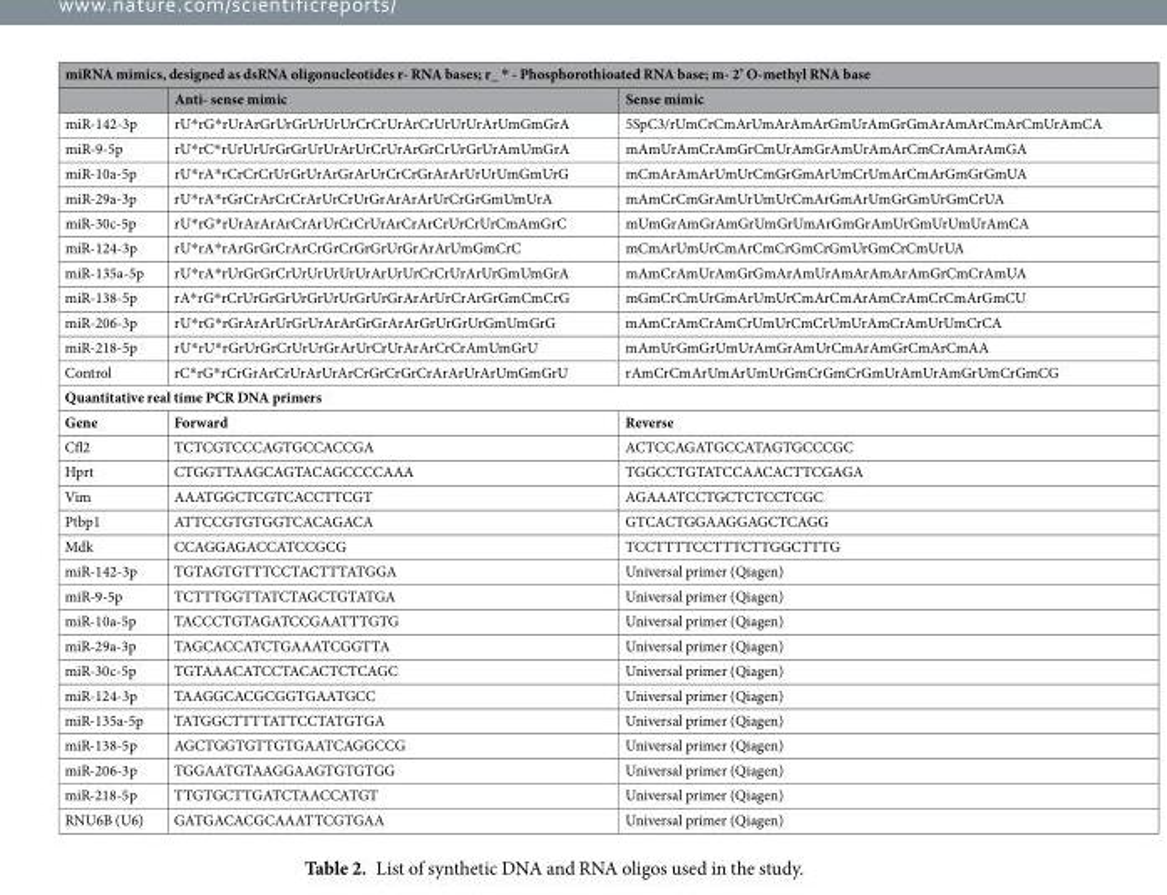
<table><thead><tr><td colspan="3">miRNA mimics, designed as dsRNA oligonucleotides r- RNA bases; r_ * - Phosphorothioated RNA base; m- 2’ O-methyl RNA base</td></tr><tr><td></td><td>Anti- sense mimic</td><td>Sense mimic</td></tr></thead><tbody><tr><td>miR-142-3p</td><td>rU*rG*rUrArGrUrGrUrUrUrCrCrUrArCrUrUrUrArUmGmGrA</td><td>5SpC3/rUmCrCmArUmArAmArGmUrAmGrGmArAmArCmArCmUrAmCA</td></tr><tr><td>miR-9-5p</td><td>rU*rC*rUrUrUrGrGrUrUrArUrCrUrArGrCrUrGrUrAmUmGrA</td><td>mAmUrAmCrAmGrCmUrAmGrAmUrAmArCmCrAmArAmGA</td></tr><tr><td>miR-10a-5p</td><td>rU*rA*rCrCrCrUrGrUrArGrArUrCrCrGrArArUrUrUmGmUrG</td><td>mCmArAmArUmUrCmGrGmArUmCrUmArCmArGmGrGmUA</td></tr><tr><td>miR-29a-3p</td><td>rU*rA*rGrCrArCrCrArUrCrUrGrArArArUrCrGrGmUmUrA</td><td>mAmCrCmGrAmUrUmUrCmArGmArUmGrGmUrGmCrUA</td></tr><tr><td>miR-30c-5p</td><td>rU*rG*rUrArArArCrArUrCrCrUrArCrArCrUrCrUrCmAmGrC</td><td>mUmGrAmGrAmGrUmGrUmArGmGrAmUrGmUrUmUrAmCA</td></tr><tr><td>miR-124-3p</td><td>rU*rA*rArGrGrCrArCrGrCrGrGrUrGrArArUmGmCrC</td><td>mCmArUmUrCmArCmCrGmCrGmUrGmCrCmUrUA</td></tr><tr><td>miR-135a-5p</td><td>rU*rA*rUrGrGrCrUrUrUrUrUrArUrUrCrCrUrArUrGmUmGrA</td><td>mAmCrAmUrAmGrGmArAmUrAmArAmArAmGrCmCrAmUA</td></tr><tr><td>miR-138-5p</td><td>rA*rG*rCrUrGrGrUrGrUrUrGrUrGrArArUrCrArGrGmCmCrG</td><td>mGmCrCmUrGmArUmUrCmArCmArAmCrAmCrCmArGmCU</td></tr><tr><td>miR-206-3p</td><td>rU*rG*rGrArArUrGrUrArArGrGrArArGrUrGrUrGmUmGrG</td><td>mAmCrAmCrAmCrUmUrCmCrUmUrAmCrAmUrUmCrCA</td></tr><tr><td>miR-218-5p</td><td>rU*rU*rGrUrGrCrUrUrGrArUrCrUrArArCrCrAmUmGrU</td><td>mAmUrGmGrUmUrAmGrAmUrCmArAmGrCmArCmAA</td></tr><tr><td>Control</td><td>rC*rG*rCrGrArCrUrArUrArCrGrCrGrCrArArUrArUmGmGrU</td><td>rAmCrCmArUmArUmUrGmCrGmCrGmUrAmUrAmGrUmCrGmCG</td></tr><tr><td colspan="3">Quantitative real time PCR DNA primers</td></tr><tr><td>Gene</td><td>Forward</td><td>Reverse</td></tr><tr><td>Cfl2</td><td>TCTCGTCCCAGTGCCACCGA</td><td>ACTCCAGATGCCATAGTGCCCGC</td></tr><tr><td>Hprt</td><td>CTGGTTAAGCAGTACAGCCCCAAA</td><td>TGGCCTGTATCCAACACTTCGAGA</td></tr><tr><td>Vim</td><td>AAATGGCTCGTCACCTTCGT</td><td>AGAAATCCTGCTCTCCTCGC</td></tr><tr><td>Ptbp1</td><td>ATTCCGTGTGGTCACAGACA</td><td>GTCACTGGAAGGAGCTCAGG</td></tr><tr><td>Mdk</td><td>CCAGGAGACCATCCGCG</td><td>TCCTTTTCCTTTCTTGGCTTTG</td></tr><tr><td>miR-142-3p</td><td>TGTAGTGTTTCCTACTTTATGGA</td><td>Universal primer (Qiagen)</td></tr><tr><td>miR-9-5p</td><td>TCTTTGGTTATCTAGCTGTATGA</td><td>Universal primer (Qiagen)</td></tr><tr><td>miR-10a-5p</td><td>TACCCTGTAGATCCGAATTTGTG</td><td>Universal primer (Qiagen)</td></tr><tr><td>miR-29a-3p</td><td>TAGCACCATCTGAAATCGGTTA</td><td>Universal primer (Qiagen)</td></tr><tr><td>miR-30c-5p</td><td>TGTAAACATCCTACACTCTCAGC</td><td>Universal primer (Qiagen)</td></tr><tr><td>miR-124-3p</td><td>TAAGGCACGCGGTGAATGCC</td><td>Universal primer (Qiagen)</td></tr><tr><td>miR-135a-5p</td><td>TATGGCTTTTATTCCTATGTGA</td><td>Universal primer (Qiagen)</td></tr><tr><td>miR-138-5p</td><td>AGCTGGTGTTGTGAATCAGGCCG</td><td>Universal primer (Qiagen)</td></tr><tr><td>miR-206-3p</td><td>TGGAATGTAAGGAAGTGTGTGG</td><td>Universal primer (Qiagen)</td></tr><tr><td>miR-218-5p</td><td>TTGTGCTTGATCTAACCATGT</td><td>Universal primer (Qiagen)</td></tr><tr><td>RNU6B (U6)</td><td>GATGACACGCAAATTCGTGAA</td><td>Universal primer (Qiagen)</td></tr></tbody></table>